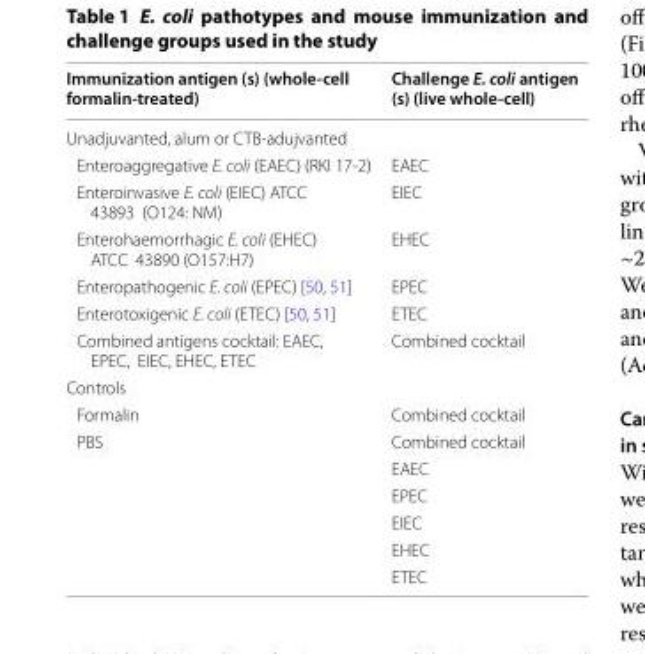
<table><thead><tr><td>Immunization antigen (s) (whole-cell formalin-treated)</td><td>Challenge E. coli antigen (s) (live whole-cell)</td></tr></thead><tbody><tr><td colspan="2">Unadjuvanted, alum or CTB-adujvanted</td></tr><tr><td>Enteroaggregative E. coli (EAEC) (RKI 17-2)</td><td>EAEC</td></tr><tr><td>Enteroinvasive E. coli (EIEC) ATCC 43893 (O124: NM)</td><td>EIEC</td></tr><tr><td>Enterohaemorrhagic E. coli (EHEC) ATCC 43890 (O157:H7)</td><td>EHEC</td></tr><tr><td>Enteropathogenic E. coli (EPEC) [50, 51]</td><td>EPEC</td></tr><tr><td>Enterotoxigenic E. coli (ETEC) [50, 51]</td><td>ETEC</td></tr><tr><td>Combined antigens cocktail: EAEC, EPEC, EIEC, EHEC, ETEC</td><td>Combined cocktail</td></tr><tr><td colspan="2">Controls</td></tr><tr><td>Formalin</td><td>Combined cocktail</td></tr><tr><td rowspan="6">PBS</td><td>Combined cocktail</td></tr><tr><td>EAEC</td></tr><tr><td>EPEC</td></tr><tr><td>EIEC</td></tr><tr><td>EHEC</td></tr><tr><td>ETEC</td></tr></tbody></table>